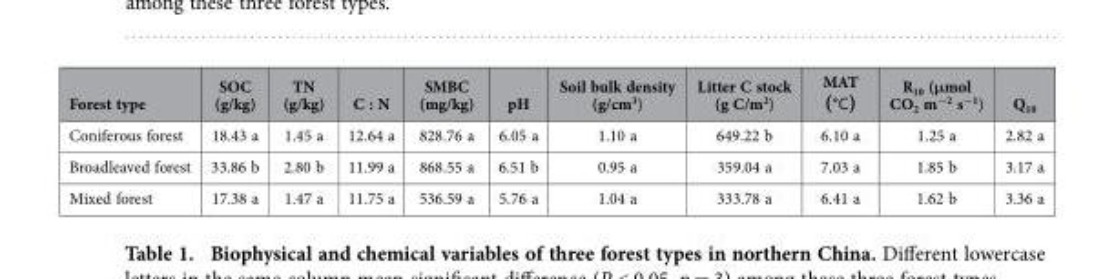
<table><thead><tr><td>Forest type</td><td>SOC (g/kg)</td><td>TN (g/kg)</td><td>C : N</td><td>SMBC (mg/kg)</td><td>pH</td><td>Soil bulk density (g/cm<sup>3</sup>)</td><td>Litter C stock (g C/m<sup>2</sup>)</td><td>MAT (℃)</td><td>R<sub>10</sub> (μmol CO<sub>2</sub> m<sup>−2</sup> s<sup>−1</sup>)</td><td>Q<sub>10</sub></td></tr></thead><tbody><tr><td>Coniferous forest</td><td>18.43 a</td><td>1.45 a</td><td>12.64 a</td><td>828.76 a</td><td>6.05 a</td><td>1.10 a</td><td>649.22 b</td><td>6.10 a</td><td>1.25 a</td><td>2.82 a</td></tr><tr><td>Broadleaved forest</td><td>33.86 b</td><td>2.80 b</td><td>11.99 a</td><td>868.55 a</td><td>6.51 b</td><td>0.95 a</td><td>359.04 a</td><td>7.03 a</td><td>1.85 b</td><td>3.17 a</td></tr><tr><td>Mixed forest</td><td>17.38 a</td><td>1.47 a</td><td>11.75 a</td><td>536.59 a</td><td>5.76 a</td><td>1.04 a</td><td>333.78 a</td><td>6.41 a</td><td>1.62 b</td><td>3.36 a</td></tr></tbody></table>